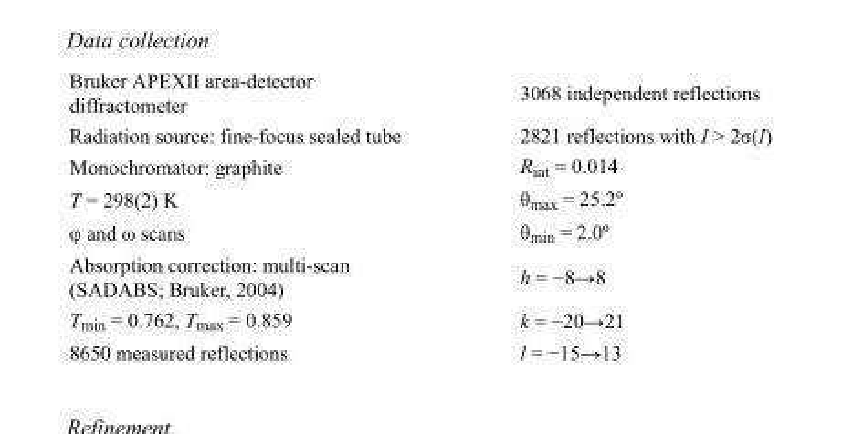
<table><tbody><tr><td>Bruker APEXII area-detector diffractometer</td><td>3068 independent reflections</td></tr><tr><td>Radiation source: fine-focus sealed tube</td><td>2821 reflections with I &gt; 2σ(I)</td></tr><tr><td>Monochromator: graphite</td><td>R<sub>int</sub> = 0.014</td></tr><tr><td>T = 298(2) K</td><td>θ<sub>max</sub> = 25.2º</td></tr><tr><td>φ and ω scans</td><td>θ<sub>min</sub> = 2.0º</td></tr><tr><td>Absorption correction: multi-scan (SADABS; Bruker, 2004)</td><td>h = −8→8</td></tr><tr><td>T<sub>min</sub> = 0.762, T<sub>max</sub> = 0.859</td><td>k = −20→21</td></tr><tr><td>8650 measured reflections</td><td>l = −15→13</td></tr></tbody></table>